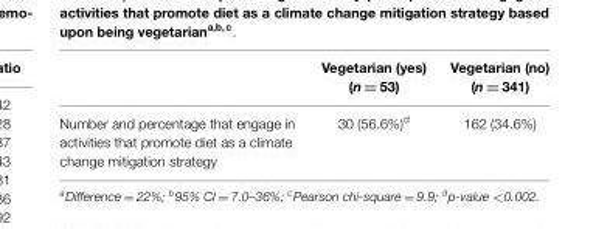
<table><thead><tr><td></td><td>Vegetarian (yes) (n = 53)</td><td>Vegetarian (no) (n = 341)</td></tr></thead><tbody><tr><td>Number and percentage that engage in activities that promote diet as a climate change mitigation strategy</td><td>30 (56.6%)<sup>d</sup></td><td>162 (34.6%)</td></tr></tbody></table>